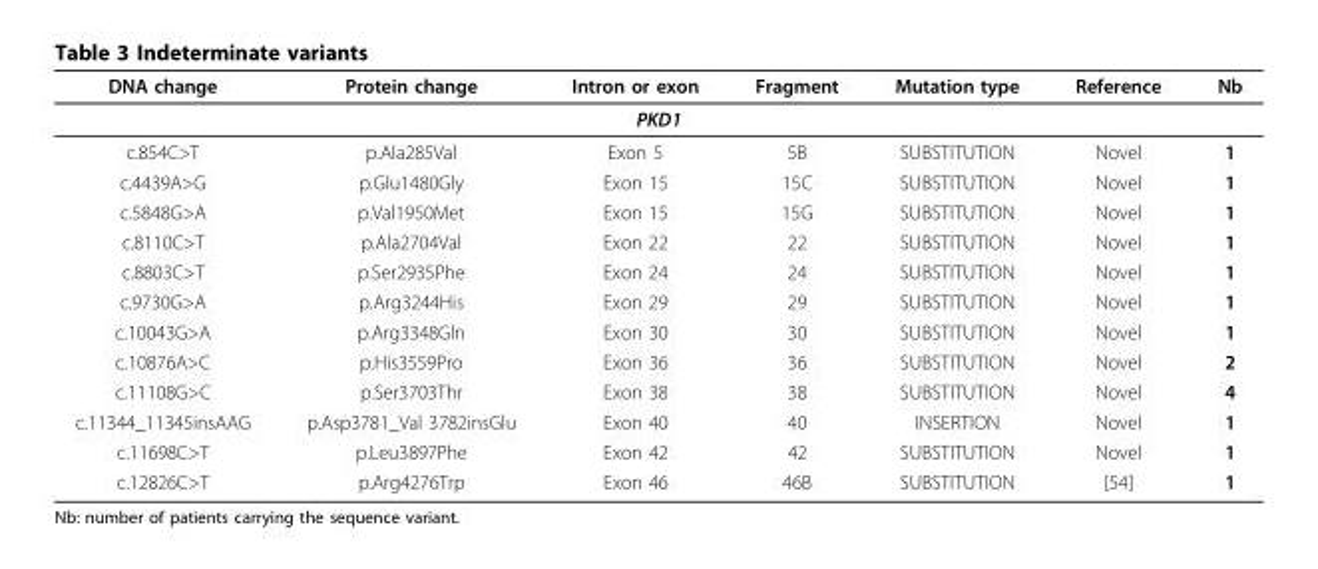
<table><thead><tr><td>DNA change</td><td>Protein change</td><td>Intron or exon</td><td>Fragment</td><td>Mutation type</td><td>Reference</td><td>Nb</td></tr></thead><tbody><tr><td colspan="7">PKD1</td></tr><tr><td>c.854C&gt;T</td><td>p.Ala285Val</td><td>Exon 5</td><td>5B</td><td>SUBSTITUTION</td><td>Novel</td><td>1</td></tr><tr><td>c.4439A&gt;G</td><td>p.Glu1480Gly</td><td>Exon 15</td><td>15C</td><td>SUBSTITUTION</td><td>Novel</td><td>1</td></tr><tr><td>c.5848G&gt;A</td><td>p.Val1950Met</td><td>Exon 15</td><td>15G</td><td>SUBSTITUTION</td><td>Novel</td><td>1</td></tr><tr><td>c.8110C&gt;T</td><td>p.Ala2704Val</td><td>Exon 22</td><td>22</td><td>SUBSTITUTION</td><td>Novel</td><td>1</td></tr><tr><td>c.8803C&gt;T</td><td>p.Ser2935Phe</td><td>Exon 24</td><td>24</td><td>SUBSTITUTION</td><td>Novel</td><td>1</td></tr><tr><td>c.9730G&gt;A</td><td>p.Arg3244His</td><td>Exon 29</td><td>29</td><td>SUBSTITUTION</td><td>Novel</td><td>1</td></tr><tr><td>c.10043G&gt;A</td><td>p.Arg3348Gln</td><td>Exon 30</td><td>30</td><td>SUBSTITUTION</td><td>Novel</td><td>1</td></tr><tr><td>c.10876A&gt;C</td><td>p.His3559Pro</td><td>Exon 36</td><td>36</td><td>SUBSTITUTION</td><td>Novel</td><td>2</td></tr><tr><td>c.11108G&gt;C</td><td>p.Ser3703Thr</td><td>Exon 38</td><td>38</td><td>SUBSTITUTION</td><td>Novel</td><td>4</td></tr><tr><td>c.11344_11345insAAG</td><td>p.Asp3781_Val 3782insGlu</td><td>Exon 40</td><td>40</td><td>INSERTION</td><td>Novel</td><td>1</td></tr><tr><td>c.11698C&gt;T</td><td>p.Leu3897Phe</td><td>Exon 42</td><td>42</td><td>SUBSTITUTION</td><td>Novel</td><td>1</td></tr><tr><td>c.12826C&gt;T</td><td>p.Arg4276Trp</td><td>Exon 46</td><td>46B</td><td>SUBSTITUTION</td><td>[54]</td><td>1</td></tr></tbody></table>